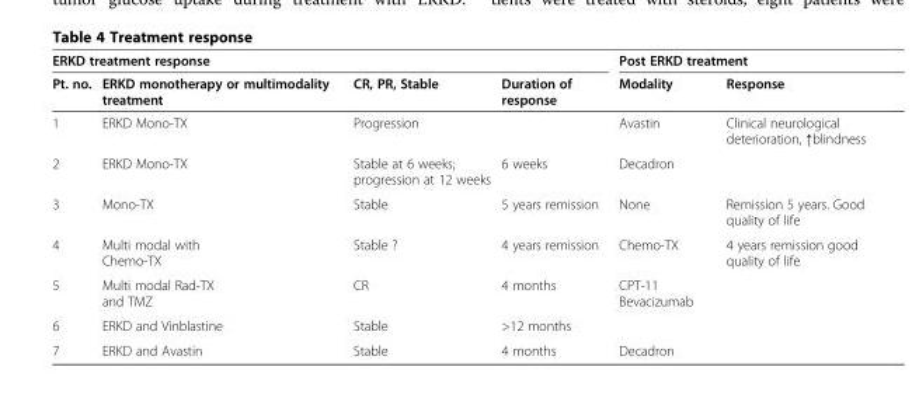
<table><thead><tr><td colspan="4">ERKD treatment response</td><td colspan="2">Post ERKD treatment</td></tr><tr><td>Pt. no.</td><td>ERKD monotherapy or multimodality treatment</td><td>CR, PR, Stable</td><td>Duration of response</td><td>Modality</td><td>Response</td></tr></thead><tbody><tr><td>1</td><td>ERKD Mono-TX</td><td>Progression</td><td></td><td>Avastin</td><td>Clinical neurological deterioration, ↑blindness</td></tr><tr><td>2</td><td>ERKD Mono-TX</td><td>Stable at 6 weeks; progression at 12 weeks</td><td>6 weeks</td><td>Decadron</td><td></td></tr><tr><td>3</td><td>Mono-TX</td><td>Stable</td><td>5 years remission</td><td>None</td><td>Remission 5 years. Good quality of life</td></tr><tr><td>4</td><td>Multi modal with Chemo-TX</td><td>Stable ?</td><td>4 years remission</td><td>Chemo-TX</td><td>4 years remission good quality of life</td></tr><tr><td>5</td><td>Multi modal Rad-TX and TMZ</td><td>CR</td><td>4 months</td><td>CPT-11 Bevacizumab</td><td></td></tr><tr><td>6</td><td>ERKD and Vinblastine</td><td>Stable</td><td>&gt;12 months</td><td></td><td></td></tr><tr><td>7</td><td>ERKD and Avastin</td><td>Stable</td><td>4 months</td><td>Decadron</td><td></td></tr></tbody></table>